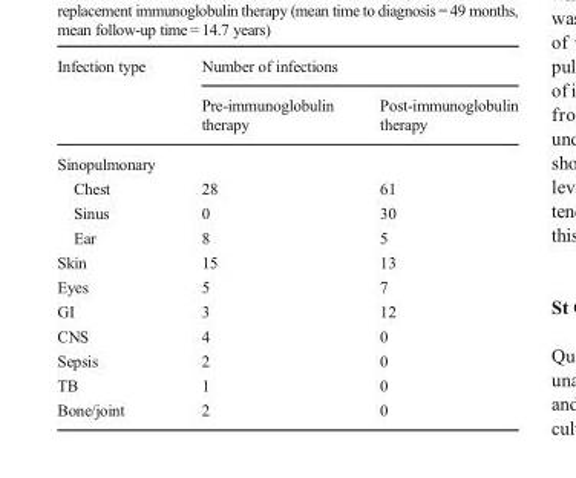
<table><thead><tr><td rowspan="2">Infection type</td><td colspan="2">Number of infections</td></tr><tr><td>Pre-immunoglobulin therapy</td><td>Post-immunoglobulin therapy</td></tr></thead><tbody><tr><td colspan="3">Sinopulmonary</td></tr><tr><td>Chest</td><td>28</td><td>61</td></tr><tr><td>Sinus</td><td>0</td><td>30</td></tr><tr><td>Ear</td><td>8</td><td>5</td></tr><tr><td>Skin</td><td>15</td><td>13</td></tr><tr><td>Eyes</td><td>5</td><td>7</td></tr><tr><td>GI</td><td>3</td><td>12</td></tr><tr><td>CNS</td><td>4</td><td>0</td></tr><tr><td>Sepsis</td><td>2</td><td>0</td></tr><tr><td>TB</td><td>1</td><td>0</td></tr><tr><td>Bone/joint</td><td>2</td><td>0</td></tr></tbody></table>